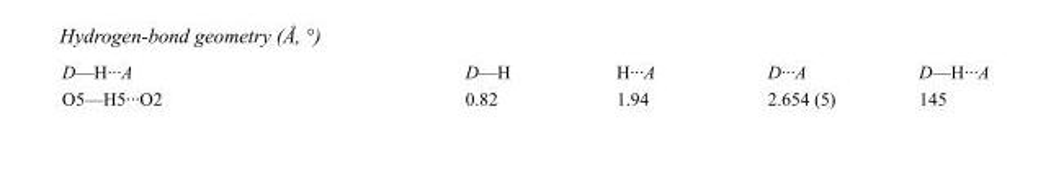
<table><tbody><tr><td>D—H···A</td><td>D—H</td><td>H···A</td><td>D···A</td><td>D—H···A</td></tr><tr><td>O5—H5···O2</td><td>0.82</td><td>1.94</td><td>2.654 (5)</td><td>145</td></tr></tbody></table>